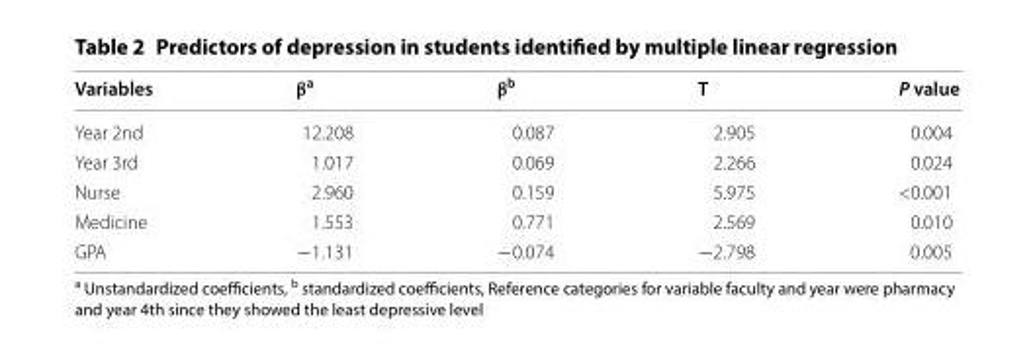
<table><thead><tr><td>Variables</td><td>β<sup>a</sup></td><td>β<sup>b</sup></td><td>T</td><td>P value</td></tr></thead><tbody><tr><td>Year 2nd</td><td>12.208</td><td>0.087</td><td>2.905</td><td>0.004</td></tr><tr><td>Year 3rd</td><td>1.017</td><td>0.069</td><td>2.266</td><td>0.024</td></tr><tr><td>Nurse</td><td>2.960</td><td>0.159</td><td>5.975</td><td>&lt;0.001</td></tr><tr><td>Medicine</td><td>1.553</td><td>0.771</td><td>2.569</td><td>0.010</td></tr><tr><td>GPA</td><td>−1.131</td><td>−0.074</td><td>−2.798</td><td>0.005</td></tr></tbody></table>